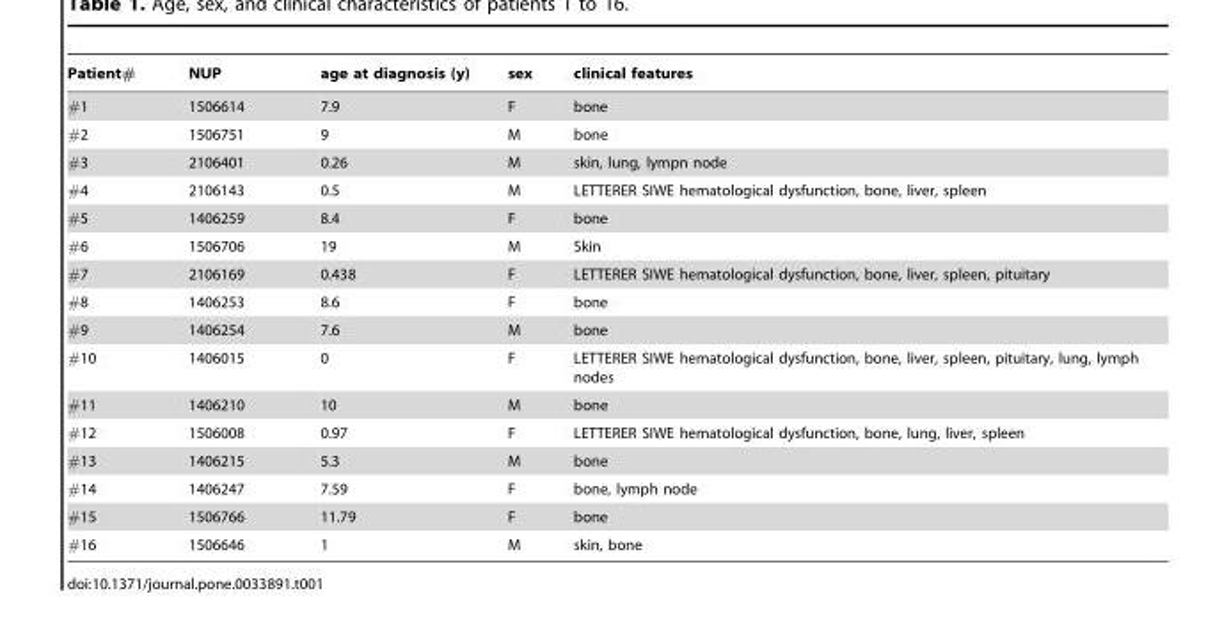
<table><thead><tr><td>Patient#</td><td>NUP</td><td>age at diagnosis (y)</td><td>sex</td><td>clinical features</td></tr></thead><tbody><tr><td>#1</td><td>1506614</td><td>7.9</td><td>F</td><td>bone</td></tr><tr><td>#2</td><td>1506751</td><td>9</td><td>M</td><td>bone</td></tr><tr><td>#3</td><td>2106401</td><td>0.26</td><td>M</td><td>skin, lung, lympn node</td></tr><tr><td>#4</td><td>2106143</td><td>0.5</td><td>M</td><td>LETTERER SIWE hematological dysfunction, bone, liver, spleen</td></tr><tr><td>#5</td><td>1406259</td><td>8.4</td><td>F</td><td>bone</td></tr><tr><td>#6</td><td>1506706</td><td>19</td><td>M</td><td>Skin</td></tr><tr><td>#7</td><td>2106169</td><td>0.438</td><td>F</td><td>LETTERER SIWE hematological dysfunction, bone, liver, spleen, pituitary</td></tr><tr><td>#8</td><td>1406253</td><td>8.6</td><td>F</td><td>bone</td></tr><tr><td>#9</td><td>1406254</td><td>7.6</td><td>M</td><td>bone</td></tr><tr><td>#10</td><td>1406015</td><td>0</td><td>F</td><td>LETTERER SIWE hematological dysfunction, bone, liver, spleen, pituitary, lung, lymph nodes</td></tr><tr><td>#11</td><td>1406210</td><td>10</td><td>M</td><td>bone</td></tr><tr><td>#12</td><td>1506008</td><td>0.97</td><td>F</td><td>LETTERER SIWE hematological dysfunction, bone, lung, liver, spleen</td></tr><tr><td>#13</td><td>1406215</td><td>5.3</td><td>M</td><td>bone</td></tr><tr><td>#14</td><td>1406247</td><td>7.59</td><td>F</td><td>bone, lymph node</td></tr><tr><td>#15</td><td>1506766</td><td>11.79</td><td>F</td><td>bone</td></tr><tr><td>#16</td><td>1506646</td><td>1</td><td>M</td><td>skin, bone</td></tr></tbody></table>